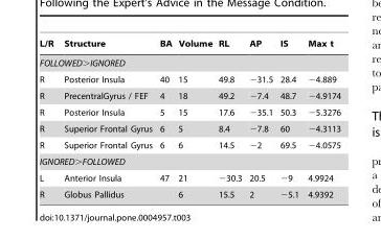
<table><thead><tr><td>L/R</td><td>Structure</td><td>BA</td><td>Volume</td><td>RL</td><td>AP</td><td>IS</td><td>Max t</td></tr></thead><tbody><tr><td colspan="8">FOLLOWED&gt;IGNORED</td></tr><tr><td>R</td><td>Posterior Insula</td><td>40</td><td>15</td><td>49.8</td><td>−31.5</td><td>28.4</td><td>−4.889</td></tr><tr><td>R</td><td>PrecentralGyrus / FEF</td><td>4</td><td>18</td><td>49.2</td><td>−7.4</td><td>48.7</td><td>−4.9174</td></tr><tr><td>R</td><td>Posterior Insula</td><td>5</td><td>15</td><td>17.6</td><td>−35.1</td><td>50.3</td><td>−5.3276</td></tr><tr><td>R</td><td>Superior Frontal Gyrus</td><td>6</td><td>5</td><td>8.4</td><td>−7.8</td><td>60</td><td>−4.3113</td></tr><tr><td>R</td><td>Superior Frontal Gyrus</td><td>6</td><td>6</td><td>14.5</td><td>−2</td><td>69.5</td><td>−4.0575</td></tr><tr><td colspan="8">IGNORED&gt;FOLLOWED</td></tr><tr><td>L</td><td>Anterior Insula</td><td>47</td><td>21</td><td>−30.3</td><td>20.5</td><td>−9</td><td>4.9924</td></tr><tr><td>R</td><td>Globus Pallidus</td><td></td><td>6</td><td>15.5</td><td>2</td><td>−5.1</td><td>4.9392</td></tr></tbody></table>